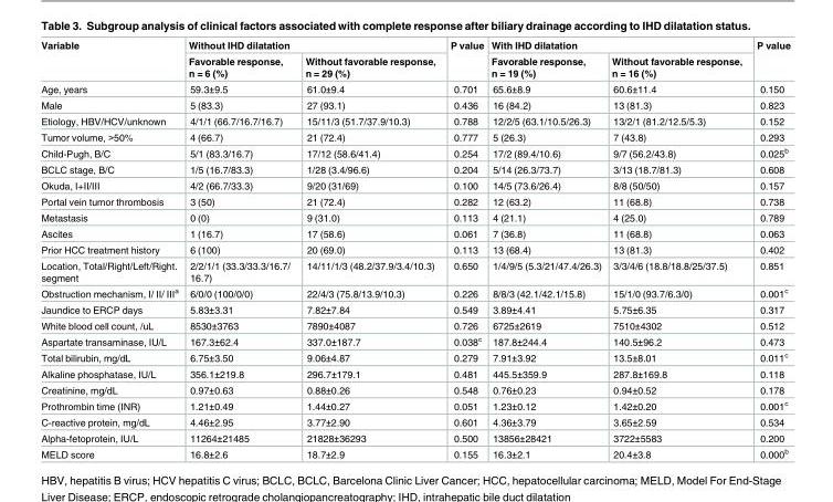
<table><thead><tr><td rowspan="2">Variable</td><td colspan="2">Without IHD dilatation</td><td rowspan="2">P value</td><td colspan="2">With IHD dilatation</td><td rowspan="2">P value</td></tr><tr><td>Favorable response, n = 6 (%)</td><td>Without favorable response, n = 29 (%)</td><td>Favorable response, n = 19 (%)</td><td>Without favorable response, n = 16 (%)</td></tr></thead><tbody><tr><td>Age, years</td><td>59.3±9.5</td><td>61.0±9.4</td><td>0.701</td><td>65.6±8.9</td><td>60.6±11.4</td><td>0.150</td></tr><tr><td>Male</td><td>5 (83.3)</td><td>27 (93.1)</td><td>0.436</td><td>16 (84.2)</td><td>13 (81.3)</td><td>0.823</td></tr><tr><td>Etiology, HBV/HCV/unknown</td><td>4/1/1 (66.7/16.7/16.7)</td><td>15/11/3 (51.7/37.9/10.3)</td><td>0.788</td><td>12/2/5 (63.1/10.5/26.3)</td><td>13/2/1 (81.2/12.5/5.3)</td><td>0.152</td></tr><tr><td>Tumor volume, &gt;50%</td><td>4 (66.7)</td><td>21 (72.4)</td><td>0.777</td><td>5 (26.3)</td><td>7 (43.8)</td><td>0.293</td></tr><tr><td>Child-Pugh, B/C</td><td>5/1 (83.3/16.7)</td><td>17/12 (58.6/41.4)</td><td>0.254</td><td>17/2 (89.4/10.6)</td><td>9/7 (56.2/43.8)</td><td>0.025<sup>b</sup></td></tr><tr><td>BCLC stage, B/C</td><td>1/5 (16.7/83.3)</td><td>1/28 (3.4/96.6)</td><td>0.204</td><td>5/14 (26.3/73.7)</td><td>3/13 (18.7/81.3)</td><td>0.608</td></tr><tr><td>Okuda, I+II/III</td><td>4/2 (66.7/33.3)</td><td>9/20 (31/69)</td><td>0.100</td><td>14/5 (73.6/26.4)</td><td>8/8 (50/50)</td><td>0.157</td></tr><tr><td>Portal vein tumor thrombosis</td><td>3 (50)</td><td>21 (72.4)</td><td>0.282</td><td>12 (63.2)</td><td>11 (68.8)</td><td>0.738</td></tr><tr><td>Metastasis</td><td>0 (0)</td><td>9 (31.0)</td><td>0.113</td><td>4 (21.1)</td><td>4 (25.0)</td><td>0.789</td></tr><tr><td>Ascites</td><td>1 (16.7)</td><td>17 (58.6)</td><td>0.061</td><td>7 (36.8)</td><td>11 (68.8)</td><td>0.063</td></tr><tr><td>Prior HCC treatment history</td><td>6 (100)</td><td>20 (69.0)</td><td>0.113</td><td>13 (68.4)</td><td>13 (81.3)</td><td>0.402</td></tr><tr><td>Location, Total/Right/Left/Right. segment</td><td>2/2/1/1 (33.3/33.3/16.7/ 16.7)</td><td>14/11/1/3 (48.2/37.9/3.4/10.3)</td><td>0.650</td><td>1/4/9/5 (5.3/21/47.4/26.3)</td><td>3/3/4/6 (18.8/18.8/25/37.5)</td><td>0.851</td></tr><tr><td>Obstruction mechanism, I/ II/ III<sup>a</sup></td><td>6/0/0 (100/0/0)</td><td>22/4/3 (75.8/13.9/10.3)</td><td>0.226</td><td>8/8/3 (42.1/42.1/15.8)</td><td>15/1/0 (93.7/6.3/0)</td><td>0.001<sup>c</sup></td></tr><tr><td>Jaundice to ERCP days</td><td>5.83±3.31</td><td>7.82±7.84</td><td>0.549</td><td>3.89±4.41</td><td>5.75±6.35</td><td>0.317</td></tr><tr><td>White blood cell count, /uL</td><td>8530±3763</td><td>7890±4087</td><td>0.726</td><td>6725±2619</td><td>7510±4302</td><td>0.512</td></tr><tr><td>Aspartate transaminase, IU/L</td><td>167.3±62.4</td><td>337.0±187.7</td><td>0.038<sup>c</sup></td><td>187.8±244.4</td><td>140.5±96.2</td><td>0.473</td></tr><tr><td>Total bilirubin, mg/dL</td><td>6.75±3.50</td><td>9.06±4.87</td><td>0.279</td><td>7.91±3.92</td><td>13.5±8.01</td><td>0.011<sup>c</sup></td></tr><tr><td>Alkaline phosphatase, IU/L</td><td>356.1±219.8</td><td>296.7±179.1</td><td>0.481</td><td>445.5±359.9</td><td>287.8±169.8</td><td>0.118</td></tr><tr><td>Creatinine, mg/dL</td><td>0.97±0.63</td><td>0.88±0.26</td><td>0.548</td><td>0.76±0.23</td><td>0.94±0.52</td><td>0.178</td></tr><tr><td>Prothrombin time (INR)</td><td>1.21±0.49</td><td>1.44±0.27</td><td>0.051</td><td>1.23±0.12</td><td>1.42±0.20</td><td>0.001<sup>c</sup></td></tr><tr><td>C-reactive protein, mg/dL</td><td>4.46±2.95</td><td>3.77±2.90</td><td>0.601</td><td>4.36±3.79</td><td>3.65±2.59</td><td>0.534</td></tr><tr><td>Alpha-fetoprotein, IU/L</td><td>11264±21485</td><td>21828±36293</td><td>0.500</td><td>13856±28421</td><td>3722±5583</td><td>0.200</td></tr><tr><td>MELD score</td><td>16.8±2.6</td><td>18.7±2.9</td><td>0.155</td><td>16.3±2.1</td><td>20.4±3.8</td><td>0.000<sup>b</sup></td></tr></tbody></table>